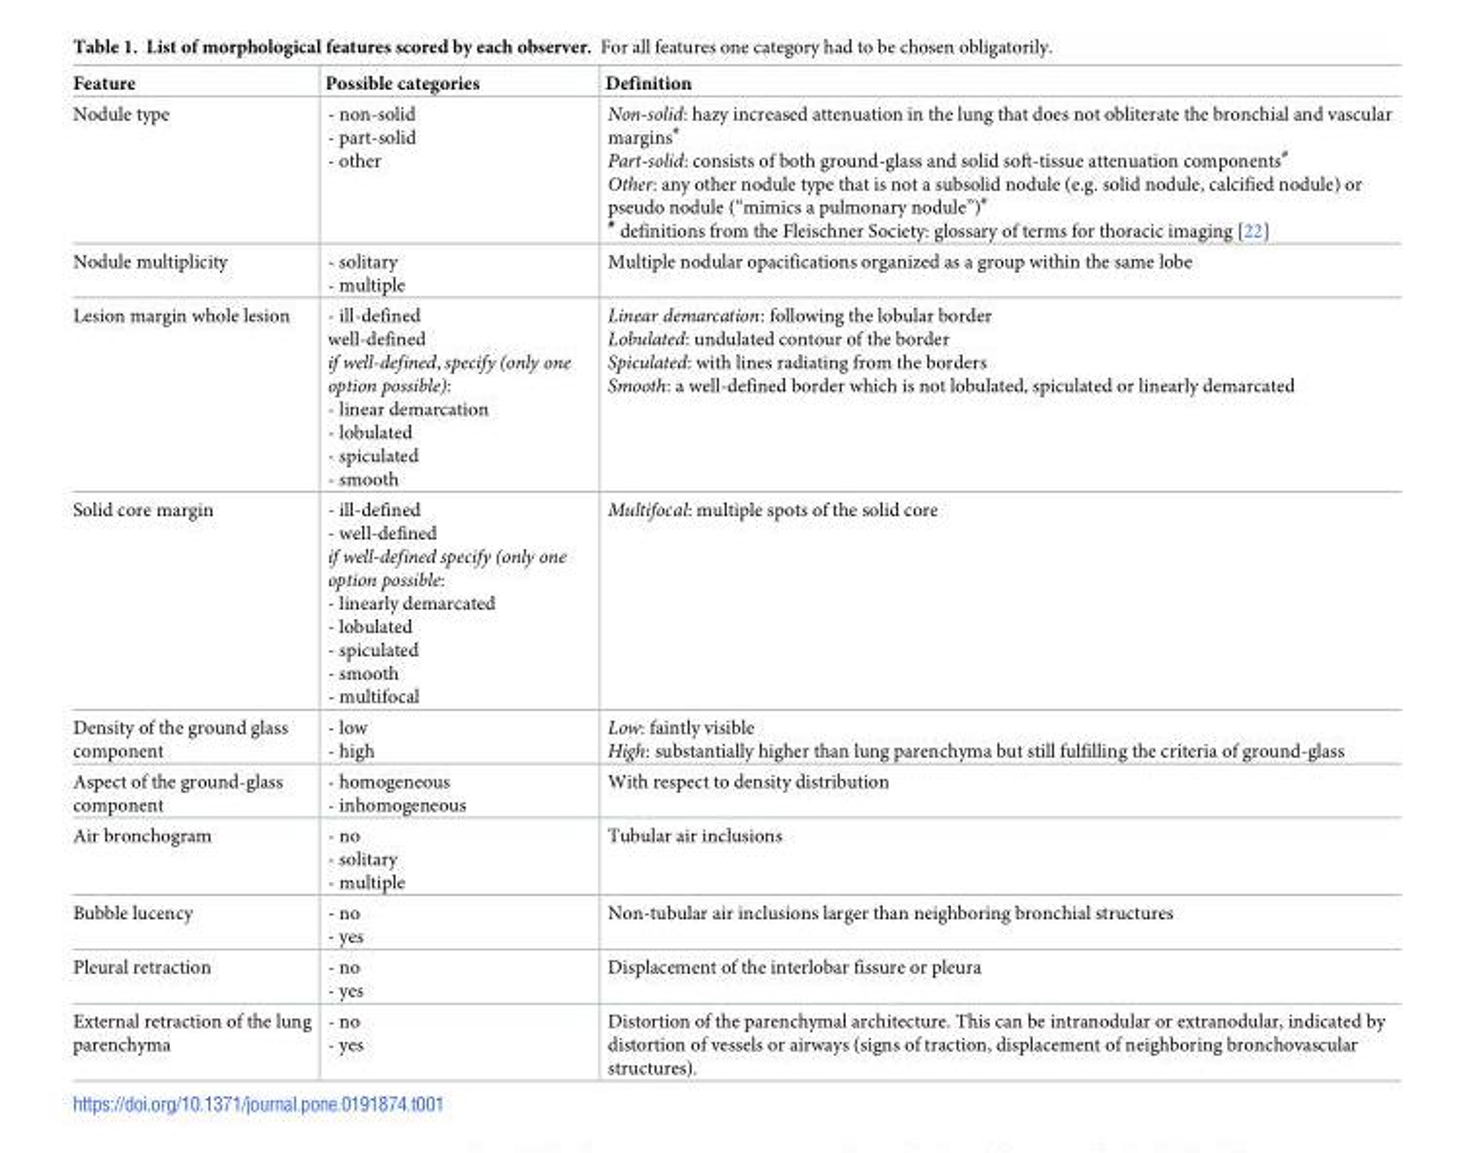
<table><thead><tr><td>Feature</td><td>Possible categories</td><td>Definition</td></tr></thead><tbody><tr><td>Nodule type</td><td>- non-solid - part-solid - other</td><td>Non-solid: hazy increased attenuation in the lung that does not obliterate the bronchial and vascular margins<sup>#</sup> Part-solid: consists of both ground-glass and solid soft-tissue attenuation components<sup>#</sup> Other: any other nodule type that is not a subsolid nodule (e.g. solid nodule, calcified nodule) or pseudo nodule (“mimics a pulmonary nodule”)<sup># #</sup> definitions from the Fleischner Society: glossary of terms for thoracic imaging [22]</td></tr><tr><td>Nodule multiplicity</td><td>- solitary - multiple</td><td>Multiple nodular opacifications organized as a group within the same lobe</td></tr><tr><td>Lesion margin whole lesion</td><td>- ill-defined well-defined if well-defined, specify (only one option possible): - linear demarcation - lobulated - spiculated - smooth</td><td>Linear demarcation: following the lobular border Lobulated: undulated contour of the border Spiculated: with lines radiating from the borders Smooth: a well-defined border which is not lobulated, spiculated or linearly demarcated</td></tr><tr><td>Solid core margin</td><td>- ill-defined - well-defined if well-defined specify (only one option possible: - linearly demarcated - lobulated - spiculated - smooth - multifocal</td><td>Multifocal: multiple spots of the solid core</td></tr><tr><td>Density of the ground glass component</td><td>- low - high</td><td>Low: faintly visible High: substantially higher than lung parenchyma but still fulfilling the criteria of ground-glass</td></tr><tr><td>Aspect of the ground-glass component</td><td>- homogeneous - inhomogeneous</td><td>With respect to density distribution</td></tr><tr><td>Air bronchogram</td><td>- no - solitary - multiple</td><td>Tubular air inclusions</td></tr><tr><td>Bubble lucency</td><td>- no - yes</td><td>Non-tubular air inclusions larger than neighboring bronchial structures</td></tr><tr><td>Pleural retraction</td><td>- no - yes</td><td>Displacement of the interlobar fissure or pleura</td></tr><tr><td>External retraction of the lung parenchyma</td><td>- no - yes</td><td>Distortion of the parenchymal architecture. This can be intranodular or extranodular, indicated by distortion of vessels or airways (signs of traction, displacement of neighboring bronchovascular structures).</td></tr></tbody></table>